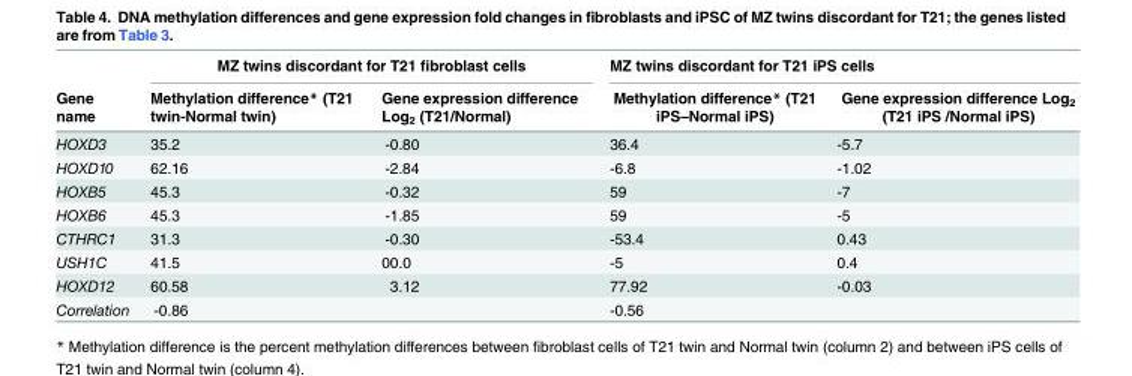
<table><thead><tr><td rowspan="2">Gene name</td><td colspan="2">MZ twins discordant for T21 fibroblast cells</td><td colspan="2">MZ twins discordant for T21 iPS cells</td></tr><tr><td>Methylation difference* (T21 twin-Normal twin)</td><td>Gene expression difference Log<sub>2</sub> (T21/Normal)</td><td>Methylation difference* (T21 iPS–Normal iPS)</td><td>Gene expression difference Log<sub>2</sub> (T21 iPS /Normal iPS)</td></tr></thead><tbody><tr><td>HOXD3</td><td>35.2</td><td>-0.80</td><td>36.4</td><td>-5.7</td></tr><tr><td>HOXD10</td><td>62.16</td><td>-2.84</td><td>-6.8</td><td>-1.02</td></tr><tr><td>HOXB5</td><td>45.3</td><td>-0.32</td><td>59</td><td>-7</td></tr><tr><td>HOXB6</td><td>45.3</td><td>-1.85</td><td>59</td><td>-5</td></tr><tr><td>CTHRC1</td><td>31.3</td><td>-0.30</td><td>-53.4</td><td>0.43</td></tr><tr><td>USH1C</td><td>41.5</td><td>00.0</td><td>-5</td><td>0.4</td></tr><tr><td>HOXD12</td><td>60.58</td><td>3.12</td><td>77.92</td><td>-0.03</td></tr><tr><td>Correlation</td><td>-0.86</td><td></td><td>-0.56</td><td></td></tr></tbody></table>